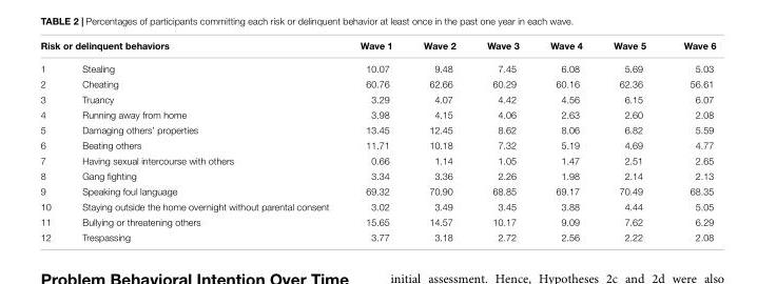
<table><thead><tr><td colspan="2">Risk or delinquent behaviors</td><td rowspan="2">Wave 1 10.07</td><td rowspan="2">Wave 2 9.48</td><td rowspan="2">Wave 3 7.45</td><td rowspan="2">Wave 4 6.08</td><td rowspan="2">Wave 5 5.69</td><td rowspan="2">Wave 6 5.03</td></tr><tr><td>1</td><td>Stealing</td></tr></thead><tbody><tr><td>2</td><td>Cheating</td><td>60.76</td><td>62.66</td><td>60.29</td><td>60.16</td><td>62.36</td><td>56.61</td></tr><tr><td>3</td><td>Truancy</td><td>3.29</td><td>4.07</td><td>4.42</td><td>4.56</td><td>6.15</td><td>6.07</td></tr><tr><td>4</td><td>Running away from home</td><td>3.98</td><td>4.15</td><td>4.06</td><td>2.63</td><td>2.60</td><td>2.08</td></tr><tr><td>5</td><td>Damaging others’ properties</td><td>13.45</td><td>12.45</td><td>8.62</td><td>8.06</td><td>6.82</td><td>5.59</td></tr><tr><td>6</td><td>Beating others</td><td>11.71</td><td>10.18</td><td>7.32</td><td>5.19</td><td>4.69</td><td>4.77</td></tr><tr><td>7</td><td>Having sexual intercourse with others</td><td>0.66</td><td>1.14</td><td>1.05</td><td>1.47</td><td>2.51</td><td>2.65</td></tr><tr><td>8</td><td>Gang fighting</td><td>3.34</td><td>3.36</td><td>2.26</td><td>1.98</td><td>2.14</td><td>2.13</td></tr><tr><td>9</td><td>Speaking foul language</td><td>69.32</td><td>70.90</td><td>68.85</td><td>69.17</td><td>70.49</td><td>68.35</td></tr><tr><td>10</td><td>Staying outside the home overnight without parental consent</td><td>3.02</td><td>3.49</td><td>3.45</td><td>3.88</td><td>4.44</td><td>5.05</td></tr><tr><td>11</td><td>Bullying or threatening others</td><td>15.65</td><td>14.57</td><td>10.17</td><td>9.09</td><td>7.62</td><td>6.29</td></tr><tr><td>12</td><td>Trespassing</td><td>3.77</td><td>3.18</td><td>2.72</td><td>2.56</td><td>2.22</td><td>2.08</td></tr></tbody></table>